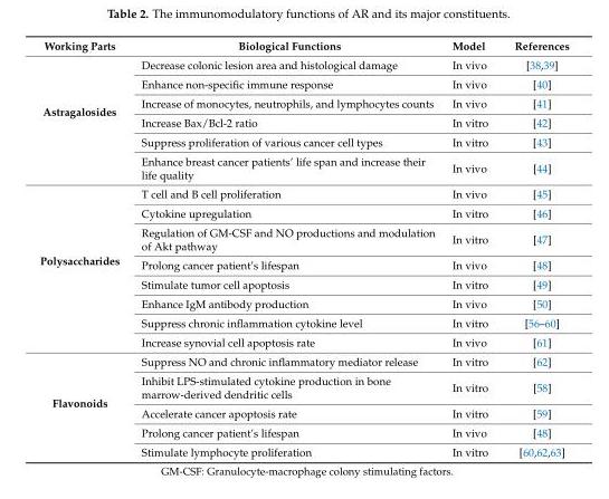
<table><thead><tr><td>Working Parts</td><td>Biological Functions</td><td>Model</td><td>References</td></tr></thead><tbody><tr><td rowspan="6">Astragalosides</td><td>Decrease colonic lesion area and histological damage</td><td>In vivo</td><td>[38,39]</td></tr><tr><td>Enhance non-specific immune response</td><td>In vivo</td><td>[40]</td></tr><tr><td>Increase of monocytes, neutrophils, and lymphocytes counts</td><td>In vivo</td><td>[41]</td></tr><tr><td>Increase Bax/Bcl-2 ratio</td><td>In vitro</td><td>[42]</td></tr><tr><td>Suppress proliferation of various cancer cell types</td><td>In vitro</td><td>[43]</td></tr><tr><td>Enhance breast cancer patients’ life span and increase their life quality</td><td>In vivo</td><td>[44]</td></tr><tr><td rowspan="8">Polysaccharides</td><td>T cell and B cell proliferation</td><td>In vivo</td><td>[45]</td></tr><tr><td>Cytokine upregulation</td><td>In vitro</td><td>[46]</td></tr><tr><td>Regulation of GM-CSF and NO productions and modulation of Akt pathway</td><td>In vitro</td><td>[47]</td></tr><tr><td>Prolong cancer patient’s lifespan</td><td>In vivo</td><td>[48]</td></tr><tr><td>Stimulate tumor cell apoptosis</td><td>In vitro</td><td>[49]</td></tr><tr><td>Enhance IgM antibody production</td><td>In vivo</td><td>[50]</td></tr><tr><td>Suppress chronic inflammation cytokine level</td><td>In vitro</td><td>[56–60]</td></tr><tr><td>Increase synovial cell apoptosis rate</td><td>In vivo</td><td>[61]</td></tr><tr><td rowspan="5">Flavonoids</td><td>Suppress NO and chronic inflammatory mediator release</td><td>In vitro</td><td>[62]</td></tr><tr><td>Inhibit LPS-stimulated cytokine production in bone marrow-derived dendritic cells</td><td>In vitro</td><td>[58]</td></tr><tr><td>Accelerate cancer apoptosis rate</td><td>In vitro</td><td>[59]</td></tr><tr><td>Prolong cancer patient’s lifespan</td><td>In vivo</td><td>[48]</td></tr><tr><td>Stimulate lymphocyte proliferation</td><td>In vitro</td><td>[60,62,63]</td></tr></tbody></table>